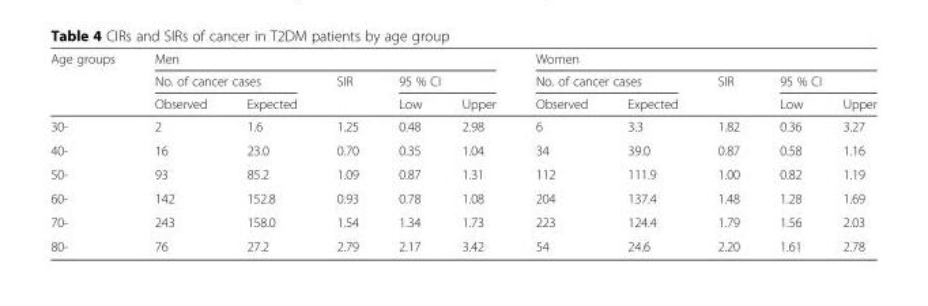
<table><thead><tr><td rowspan="3">Age groups</td><td colspan="5">Men</td><td colspan="5">Women</td></tr><tr><td colspan="2">No. of cancer cases</td><td rowspan="2">SIR</td><td colspan="2">95 % CI</td><td colspan="2">No. of cancer cases</td><td rowspan="2">SIR</td><td colspan="2">95 % CI</td></tr><tr><td>Observed</td><td>Expected</td><td>Low</td><td>Upper</td><td>Observed</td><td>Expected</td><td>Low</td><td>Upper</td></tr></thead><tbody><tr><td>30-</td><td>2</td><td>1.6</td><td>1.25</td><td>0.48</td><td>2.98</td><td>6</td><td>3.3</td><td>1.82</td><td>0.36</td><td>3.27</td></tr><tr><td>40-</td><td>16</td><td>23.0</td><td>0.70</td><td>0.35</td><td>1.04</td><td>34</td><td>39.0</td><td>0.87</td><td>0.58</td><td>1.16</td></tr><tr><td>50-</td><td>93</td><td>85.2</td><td>1.09</td><td>0.87</td><td>1.31</td><td>112</td><td>111.9</td><td>1.00</td><td>0.82</td><td>1.19</td></tr><tr><td>60-</td><td>142</td><td>152.8</td><td>0.93</td><td>0.78</td><td>1.08</td><td>204</td><td>137.4</td><td>1.48</td><td>1.28</td><td>1.69</td></tr><tr><td>70-</td><td>243</td><td>158.0</td><td>1.54</td><td>1.34</td><td>1.73</td><td>223</td><td>124.4</td><td>1.79</td><td>1.56</td><td>2.03</td></tr><tr><td>80-</td><td>76</td><td>27.2</td><td>2.79</td><td>2.17</td><td>3.42</td><td>54</td><td>24.6</td><td>2.20</td><td>1.61</td><td>2.78</td></tr></tbody></table>